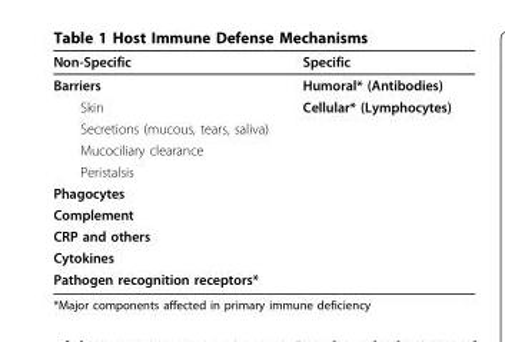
<table><thead><tr><td>Non-Specific</td><td>Specific</td></tr></thead><tbody><tr><td>Barriers</td><td>Humoral* (Antibodies)</td></tr><tr><td>Skin</td><td>Cellular* (Lymphocytes)</td></tr><tr><td colspan="2">Secretions (mucous, tears, saliva)</td></tr><tr><td colspan="2">Mucociliary clearance</td></tr><tr><td colspan="2">Peristalsis</td></tr><tr><td colspan="2">Phagocytes</td></tr><tr><td colspan="2">Complement</td></tr><tr><td colspan="2">CRP and others</td></tr><tr><td colspan="2">Cytokines</td></tr><tr><td>Pathogen recognition receptors*</td><td></td></tr></tbody></table>